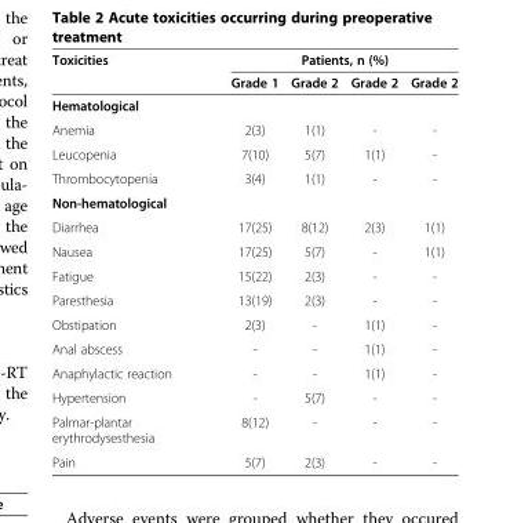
<table><thead><tr><td rowspan="2">Toxicities</td><td colspan="4">Patients, n (%)</td></tr><tr><td>Grade 1</td><td>Grade 2</td><td>Grade 2</td><td>Grade 2</td></tr></thead><tbody><tr><td colspan="5">Hematological</td></tr><tr><td>Anemia</td><td>2(3)</td><td>1(1)</td><td>-</td><td>-</td></tr><tr><td>Leucopenia</td><td>7(10)</td><td>5(7)</td><td>1(1)</td><td>-</td></tr><tr><td>Thrombocytopenia</td><td>3(4)</td><td>1(1)</td><td>-</td><td>-</td></tr><tr><td colspan="5">Non-hematological</td></tr><tr><td>Diarrhea</td><td>17(25)</td><td>8(12)</td><td>2(3)</td><td>1(1)</td></tr><tr><td>Nausea</td><td>17(25)</td><td>5(7)</td><td>-</td><td>1(1)</td></tr><tr><td>Fatigue</td><td>15(22)</td><td>2(3)</td><td>-</td><td>-</td></tr><tr><td>Paresthesia</td><td>13(19)</td><td>2(3)</td><td>-</td><td>-</td></tr><tr><td>Obstipation</td><td>2(3)</td><td>-</td><td>1(1)</td><td>-</td></tr><tr><td>Anal abscess</td><td>-</td><td>-</td><td>1(1)</td><td>-</td></tr><tr><td>Anaphylactic reaction</td><td>-</td><td>-</td><td>1(1)</td><td>-</td></tr><tr><td>Hypertension</td><td>-</td><td>5(7)</td><td>-</td><td>-</td></tr><tr><td>Palmar-plantar erythrodysesthesia</td><td>8(12)</td><td>-</td><td>-</td><td>-</td></tr><tr><td>Pain</td><td>5(7)</td><td>2(3)</td><td>-</td><td>-</td></tr></tbody></table>